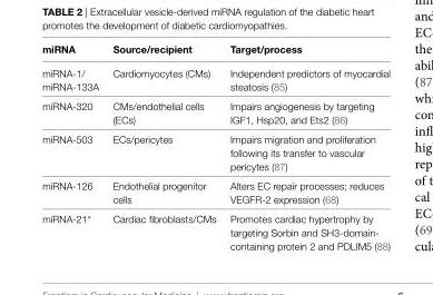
<table><thead><tr><td>miRNA</td><td>Source/recipient</td><td>Target/process</td></tr></thead><tbody><tr><td>miRNA-1/ miRNA-133A</td><td>Cardiomyocytes (CMs)</td><td>Independent predictors of myocardial steatosis (85)</td></tr><tr><td>miRNA-320</td><td>CMs/endothelial cells (ECs)</td><td>Impairs angiogenesis by targeting IGF1, Hsp20, and Ets2 (86)</td></tr><tr><td>miRNA-503</td><td>ECs/pericytes</td><td>Impairs migration and proliferation following its transfer to vascular pericytes (87)</td></tr><tr><td>miRNA-126</td><td>Endothelial progenitor cells</td><td>Alters EC repair processes; reduces VEGFR-2 expression (68)</td></tr><tr><td>miRNA-21*</td><td>Cardiac fibroblasts/CMs</td><td>Promotes cardiac hypertrophy by targeting Sorbin and SH3-domain- containing protein 2 and PDLIM5 (88)</td></tr></tbody></table>